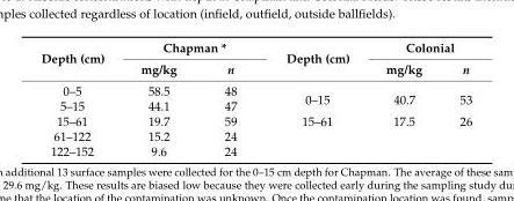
<table><thead><tr><td rowspan="2">Depth (cm)</td><td colspan="2">Chapman *</td><td rowspan="2">Depth (cm)</td><td colspan="2">Colonial</td></tr><tr><td>mg/kg</td><td>n</td><td>mg/kg</td><td>n</td></tr></thead><tbody><tr><td>0–5</td><td>58.5</td><td>48</td><td rowspan="2">0–15</td><td rowspan="2">40.7</td><td rowspan="2">53</td></tr><tr><td>5–15</td><td>44.1</td><td>47</td></tr><tr><td>15–61</td><td>19.7</td><td>59</td><td>15–61</td><td>17.5</td><td>26</td></tr><tr><td>61–122</td><td>15.2</td><td>24</td><td></td><td></td><td></td></tr><tr><td>122–152</td><td>9.6</td><td>24</td><td></td><td></td><td></td></tr></tbody></table>